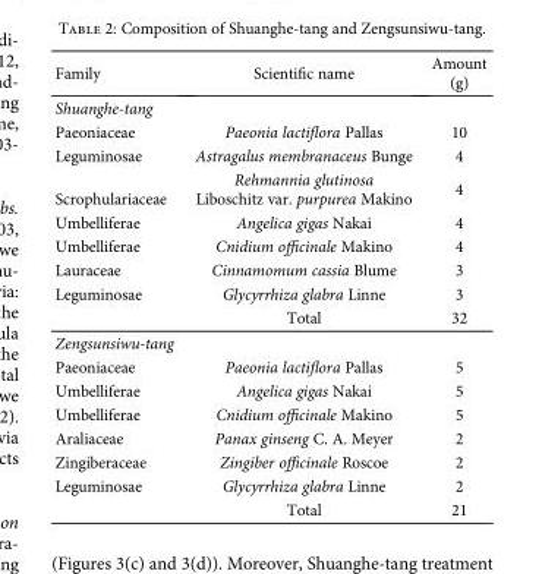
<table><thead><tr><td>Family</td><td>Scientific name</td><td>Amount (g)</td></tr></thead><tbody><tr><td colspan="3">Shuanghe-tang</td></tr><tr><td>Paeoniaceae</td><td>Paeonia lactiflora Pallas</td><td>10</td></tr><tr><td>Leguminosae</td><td>Astragalus membranaceus Bunge</td><td>4</td></tr><tr><td>Scrophulariaceae</td><td>Rehmannia glutinosa Liboschitz var. purpurea Makino</td><td>4</td></tr><tr><td>Umbelliferae</td><td>Angelica gigas Nakai</td><td>4</td></tr><tr><td>Umbelliferae</td><td>Cnidium officinale Makino</td><td>4</td></tr><tr><td>Lauraceae</td><td>Cinnamomum cassia Blume</td><td>3</td></tr><tr><td rowspan="2">Leguminosae</td><td>Glycyrrhiza glabra Linne</td><td>3</td></tr><tr><td>Total</td><td>32</td></tr><tr><td colspan="3">Zengsunsiwu-tang</td></tr><tr><td>Paeoniaceae</td><td>Paeonia lactiflora Pallas</td><td>5</td></tr><tr><td>Umbelliferae</td><td>Angelica gigas Nakai</td><td>5</td></tr><tr><td>Umbelliferae</td><td>Cnidium officinale Makino</td><td>5</td></tr><tr><td>Araliaceae</td><td>Panax ginseng C. A. Meyer</td><td>2</td></tr><tr><td>Zingiberaceae</td><td>Zingiber officinale Roscoe</td><td>2</td></tr><tr><td rowspan="2">Leguminosae</td><td>Glycyrrhiza glabra Linne</td><td>2</td></tr><tr><td>Total</td><td>21</td></tr></tbody></table>